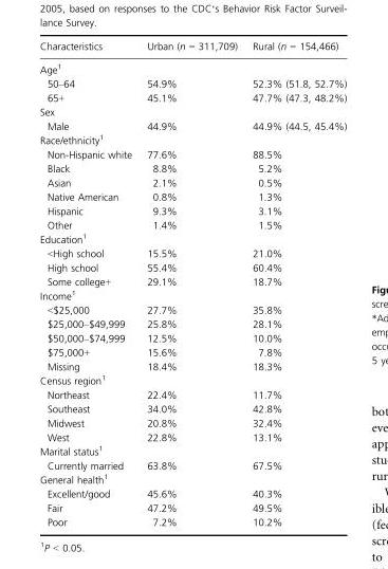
<table><thead><tr><td>Characteristics</td><td>Urban (n = 311,709)</td><td>Rural (n = 154,466)</td></tr></thead><tbody><tr><td colspan="3">Age<sup>1</sup></td></tr><tr><td>50–64</td><td>54.9%</td><td>52.3% (51.8, 52.7%)</td></tr><tr><td>65+</td><td>45.1%</td><td>47.7% (47.3, 48.2%)</td></tr><tr><td colspan="3">Sex</td></tr><tr><td>Male</td><td>44.9%</td><td>44.9% (44.5, 45.4%)</td></tr><tr><td colspan="3">Race/ethnicity<sup>1</sup></td></tr><tr><td>Non-Hispanic white</td><td>77.6%</td><td>88.5%</td></tr><tr><td>Black</td><td>8.8%</td><td>5.2%</td></tr><tr><td>Asian</td><td>2.1%</td><td>0.5%</td></tr><tr><td>Native American</td><td>0.8%</td><td>1.3%</td></tr><tr><td>Hispanic</td><td>9.3%</td><td>3.1%</td></tr><tr><td>Other</td><td>1.4%</td><td>1.5%</td></tr><tr><td colspan="3">Education<sup>1</sup></td></tr><tr><td>&lt;High school</td><td>15.5%</td><td>21.0%</td></tr><tr><td>High school</td><td>55.4%</td><td>60.4%</td></tr><tr><td>Some college+</td><td>29.1%</td><td>18.7%</td></tr><tr><td colspan="3">Income<sup>1</sup></td></tr><tr><td>&lt;$25,000</td><td>27.7%</td><td>35.8%</td></tr><tr><td>$25,000–$49,999</td><td>25.8%</td><td>28.1%</td></tr><tr><td>$50,000–$74,999</td><td>12.5%</td><td>10.0%</td></tr><tr><td>$75,000+</td><td>15.6%</td><td>7.8%</td></tr><tr><td>Missing</td><td>18.4%</td><td>18.3%</td></tr><tr><td colspan="3">Census region<sup>1</sup></td></tr><tr><td>Northeast</td><td>22.4%</td><td>11.7%</td></tr><tr><td>Southeast</td><td>34.0%</td><td>42.8%</td></tr><tr><td>Midwest</td><td>20.8%</td><td>32.4%</td></tr><tr><td>West</td><td>22.8%</td><td>13.1%</td></tr><tr><td colspan="3">Marital status<sup>1</sup></td></tr><tr><td>Currently married</td><td>63.8%</td><td>67.5%</td></tr><tr><td colspan="3">General health<sup>1</sup></td></tr><tr><td>Excellent/good</td><td>45.6%</td><td>40.3%</td></tr><tr><td>Fair</td><td>47.2%</td><td>49.5%</td></tr><tr><td>Poor</td><td>7.2%</td><td>10.2%</td></tr></tbody></table>